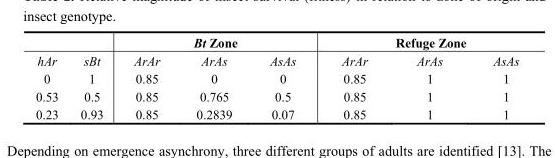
<table><thead><tr><td rowspan="2">hAr</td><td rowspan="2">sBt</td><td colspan="3">Bt Zone</td><td colspan="3">Refuge Zone</td></tr><tr><td>ArAr</td><td>ArAs</td><td>AsAs</td><td>ArAr</td><td>ArAs</td><td>AsAs</td></tr></thead><tbody><tr><td>0</td><td>1</td><td>0.85</td><td>0</td><td>0</td><td>0.85</td><td>1</td><td>1</td></tr><tr><td>0.53</td><td>0.5</td><td>0.85</td><td>0.765</td><td>0.5</td><td>0.85</td><td>1</td><td>1</td></tr><tr><td>0.23</td><td>0.93</td><td>0.85</td><td>0.2839</td><td>0.07</td><td>0.85</td><td>1</td><td>1</td></tr></tbody></table>